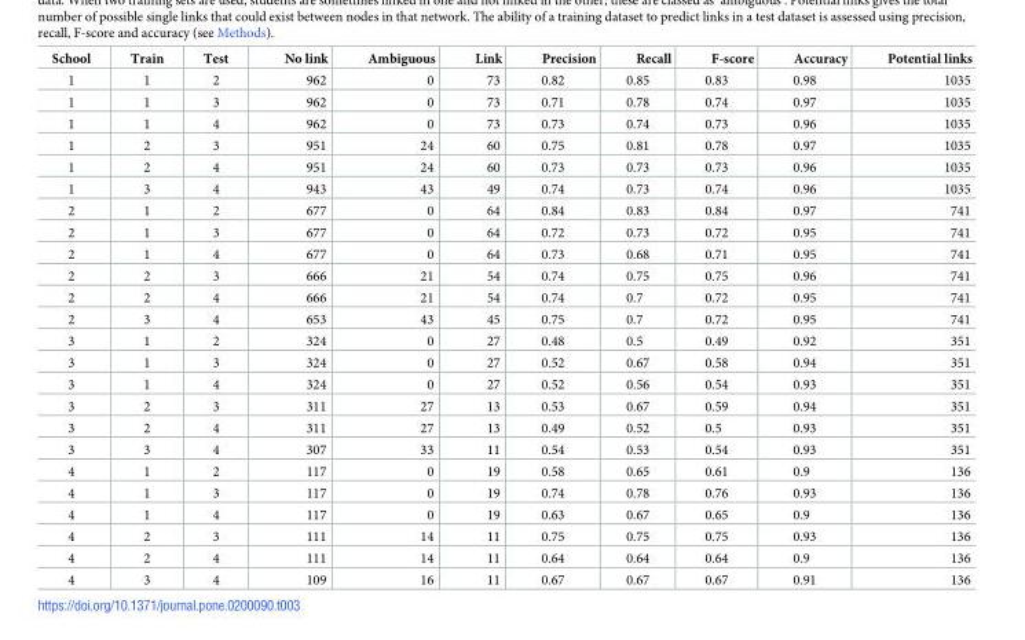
<table><thead><tr><td>School</td><td>Train</td><td>Test</td><td>No link</td><td>Ambiguous</td><td>Link</td><td>Precision</td><td>Recall</td><td>F-score</td><td>Accuracy</td><td>Potential links</td></tr></thead><tbody><tr><td>1</td><td>1</td><td>2</td><td>962</td><td>0</td><td>73</td><td>0.82</td><td>0.85</td><td>0.83</td><td>0.98</td><td>1035</td></tr><tr><td>1</td><td>1</td><td>3</td><td>962</td><td>0</td><td>73</td><td>0.71</td><td>0.78</td><td>0.74</td><td>0.97</td><td>1035</td></tr><tr><td>1</td><td>1</td><td>4</td><td>962</td><td>0</td><td>73</td><td>0.73</td><td>0.74</td><td>0.73</td><td>0.96</td><td>1035</td></tr><tr><td>1</td><td>2</td><td>3</td><td>951</td><td>24</td><td>60</td><td>0.75</td><td>0.81</td><td>0.78</td><td>0.97</td><td>1035</td></tr><tr><td>1</td><td>2</td><td>4</td><td>951</td><td>24</td><td>60</td><td>0.73</td><td>0.73</td><td>0.73</td><td>0.96</td><td>1035</td></tr><tr><td>1</td><td>3</td><td>4</td><td>943</td><td>43</td><td>49</td><td>0.74</td><td>0.73</td><td>0.74</td><td>0.96</td><td>1035</td></tr><tr><td>2</td><td>1</td><td>2</td><td>677</td><td>0</td><td>64</td><td>0.84</td><td>0.83</td><td>0.84</td><td>0.97</td><td>741</td></tr><tr><td>2</td><td>1</td><td>3</td><td>677</td><td>0</td><td>64</td><td>0.72</td><td>0.73</td><td>0.72</td><td>0.95</td><td>741</td></tr><tr><td>2</td><td>1</td><td>4</td><td>677</td><td>0</td><td>64</td><td>0.73</td><td>0.68</td><td>0.71</td><td>0.95</td><td>741</td></tr><tr><td>2</td><td>2</td><td>3</td><td>666</td><td>21</td><td>54</td><td>0.74</td><td>0.75</td><td>0.75</td><td>0.96</td><td>741</td></tr><tr><td>2</td><td>2</td><td>4</td><td>666</td><td>21</td><td>54</td><td>0.74</td><td>0.7</td><td>0.72</td><td>0.95</td><td>741</td></tr><tr><td>2</td><td>3</td><td>4</td><td>653</td><td>43</td><td>45</td><td>0.75</td><td>0.7</td><td>0.72</td><td>0.95</td><td>741</td></tr><tr><td>3</td><td>1</td><td>2</td><td>324</td><td>0</td><td>27</td><td>0.48</td><td>0.5</td><td>0.49</td><td>0.92</td><td>351</td></tr><tr><td>3</td><td>1</td><td>3</td><td>324</td><td>0</td><td>27</td><td>0.52</td><td>0.67</td><td>0.58</td><td>0.94</td><td>351</td></tr><tr><td>3</td><td>1</td><td>4</td><td>324</td><td>0</td><td>27</td><td>0.52</td><td>0.56</td><td>0.54</td><td>0.93</td><td>351</td></tr><tr><td>3</td><td>2</td><td>3</td><td>311</td><td>27</td><td>13</td><td>0.53</td><td>0.67</td><td>0.59</td><td>0.94</td><td>351</td></tr><tr><td>3</td><td>2</td><td>4</td><td>311</td><td>27</td><td>13</td><td>0.49</td><td>0.52</td><td>0.5</td><td>0.93</td><td>351</td></tr><tr><td>3</td><td>3</td><td>4</td><td>307</td><td>33</td><td>11</td><td>0.54</td><td>0.53</td><td>0.54</td><td>0.93</td><td>351</td></tr><tr><td>4</td><td>1</td><td>2</td><td>117</td><td>0</td><td>19</td><td>0.58</td><td>0.65</td><td>0.61</td><td>0.9</td><td>136</td></tr><tr><td>4</td><td>1</td><td>3</td><td>117</td><td>0</td><td>19</td><td>0.74</td><td>0.78</td><td>0.76</td><td>0.93</td><td>136</td></tr><tr><td>4</td><td>1</td><td>4</td><td>117</td><td>0</td><td>19</td><td>0.63</td><td>0.67</td><td>0.65</td><td>0.9</td><td>136</td></tr><tr><td>4</td><td>2</td><td>3</td><td>111</td><td>14</td><td>11</td><td>0.75</td><td>0.75</td><td>0.75</td><td>0.93</td><td>136</td></tr><tr><td>4</td><td>2</td><td>4</td><td>111</td><td>14</td><td>11</td><td>0.64</td><td>0.64</td><td>0.64</td><td>0.9</td><td>136</td></tr><tr><td>4</td><td>3</td><td>4</td><td>109</td><td>16</td><td>11</td><td>0.67</td><td>0.67</td><td>0.67</td><td>0.91</td><td>136</td></tr></tbody></table>